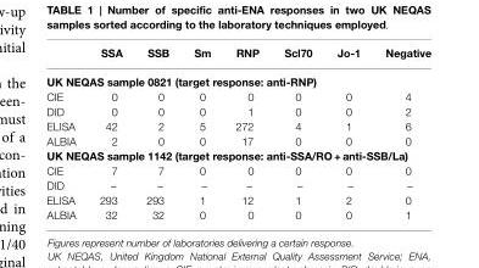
<table><thead><tr><td></td><td>SSA</td><td>SSB</td><td>Sm</td><td>RNP</td><td>Scl70</td><td>Jo-1</td><td>Negative</td></tr></thead><tbody><tr><td colspan="8">UK NEQAS sample 0821 (target response: anti-RNP)</td></tr><tr><td>CIE</td><td>0</td><td>0</td><td>0</td><td>0</td><td>0</td><td>0</td><td>4</td></tr><tr><td>DID</td><td>0</td><td>0</td><td>0</td><td>1</td><td>0</td><td>0</td><td>2</td></tr><tr><td>ELISA</td><td>42</td><td>2</td><td>5</td><td>272</td><td>4</td><td>1</td><td>6</td></tr><tr><td>ALBIA</td><td>2</td><td>0</td><td>0</td><td>17</td><td>0</td><td>0</td><td>0</td></tr><tr><td colspan="8">UK NEQAS sample 1142 (target response: anti-SSA/RO + anti-SSB/La)</td></tr><tr><td>CIE</td><td>7</td><td>7</td><td>0</td><td>0</td><td>0</td><td>0</td><td>0</td></tr><tr><td>DID</td><td>–</td><td>–</td><td>–</td><td>–</td><td>–</td><td>–</td><td>–</td></tr><tr><td>ELISA</td><td>293</td><td>293</td><td>1</td><td>12</td><td>1</td><td>2</td><td>0</td></tr><tr><td>ALBIA</td><td>32</td><td>32</td><td>0</td><td>0</td><td>0</td><td>0</td><td>1</td></tr></tbody></table>